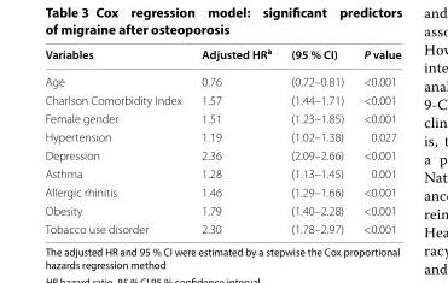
<table><thead><tr><td>Variables</td><td>Adjusted HR<sup>a</sup></td><td>(95 % CI)</td><td>P value</td></tr></thead><tbody><tr><td>Age</td><td>0.76</td><td>(0.72–0.81)</td><td>&lt;0.001</td></tr><tr><td>Charlson Comorbidity Index</td><td>1.57</td><td>(1.44–1.71)</td><td>&lt;0.001</td></tr><tr><td>Female gender</td><td>1.51</td><td>(1.23–1.85)</td><td>&lt;0.001</td></tr><tr><td>Hypertension</td><td>1.19</td><td>(1.02–1.38)</td><td>0.027</td></tr><tr><td>Depression</td><td>2.36</td><td>(2.09–2.66)</td><td>&lt;0.001</td></tr><tr><td>Asthma</td><td>1.28</td><td>(1.13–1.45)</td><td>0.001</td></tr><tr><td>Allergic rhinitis</td><td>1.46</td><td>(1.29–1.66)</td><td>&lt;0.001</td></tr><tr><td>Obesity</td><td>1.79</td><td>(1.40–2.28)</td><td>&lt;0.001</td></tr><tr><td>Tobacco use disorder</td><td>2.30</td><td>(1.78–2.97)</td><td>&lt;0.001</td></tr></tbody></table>